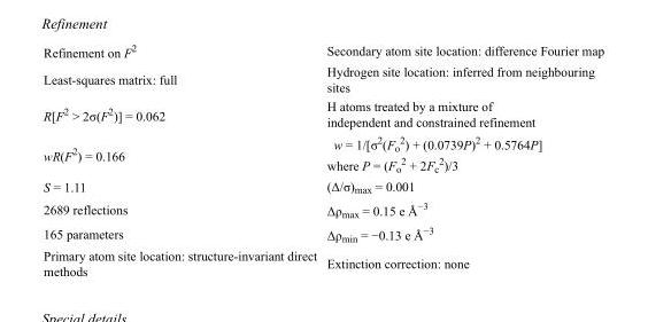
<table><tbody><tr><td>Refinement on F<sup>2</sup></td><td>Secondary atom site location: difference Fourier map</td></tr><tr><td>Least-squares matrix: full</td><td>Hydrogen site location: inferred from neighbouring sites</td></tr><tr><td>R[F<sup>2</sup> &gt; 2σ(F<sup>2</sup>)] = 0.062</td><td>H atoms treated by a mixture of independent and constrained refinement</td></tr><tr><td>wR(F<sup>2</sup>) = 0.166</td><td>w = 1/[σ<sup>2</sup>(F<sub>o</sub> <sup>2</sup>) + (0.0739P)<sup>2</sup> + 0.5764P] where P = (F<sub>o</sub> <sup>2</sup> + 2F<sub>c</sub> <sup>2</sup>)/3</td></tr><tr><td>S = 1.11</td><td>(Δ/σ)<sub>max</sub> = 0.001</td></tr><tr><td>2689 reflections</td><td>Δρ<sub>max</sub> = 0.15 e Å<sup>−3</sup></td></tr><tr><td>165 parameters</td><td>Δρ<sub>min</sub> = −0.13 e Å<sup>−3</sup></td></tr><tr><td>Primary atom site location: structure-invariant direct methods</td><td>Extinction correction: none</td></tr></tbody></table>